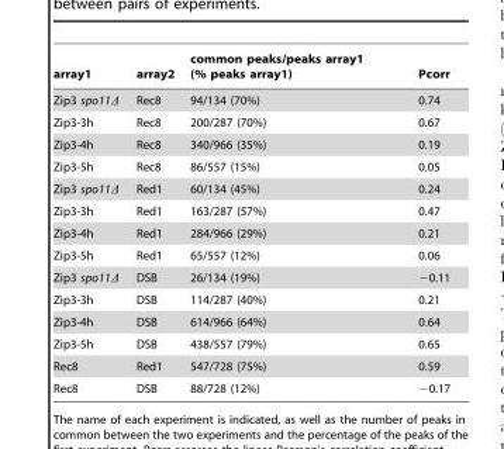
<table><thead><tr><td>array1</td><td>array2</td><td>common peaks/peaks array1 (% peaks array1)</td><td>Pcorr</td></tr></thead><tbody><tr><td>Zip3 spo11Δ</td><td>Rec8</td><td>94/134 (70%)</td><td>0.74</td></tr><tr><td>Zip3-3h</td><td>Rec8</td><td>200/287 (70%)</td><td>0.67</td></tr><tr><td>Zip3-4h</td><td>Rec8</td><td>340/966 (35%)</td><td>0.19</td></tr><tr><td>Zip3-5h</td><td>Rec8</td><td>86/557 (15%)</td><td>0.05</td></tr><tr><td>Zip3 spo11Δ</td><td>Red1</td><td>60/134 (45%)</td><td>0.24</td></tr><tr><td>Zip3-3h</td><td>Red1</td><td>163/287 (57%)</td><td>0.47</td></tr><tr><td>Zip3-4h</td><td>Red1</td><td>284/966 (29%)</td><td>0.21</td></tr><tr><td>Zip3-5h</td><td>Red1</td><td>65/557 (12%)</td><td>0.06</td></tr><tr><td>Zip3 spo11Δ</td><td>DSB</td><td>26/134 (19%)</td><td>−0.11</td></tr><tr><td>Zip3-3h</td><td>DSB</td><td>114/287 (40%)</td><td>0.21</td></tr><tr><td>Zip3-4h</td><td>DSB</td><td>614/966 (64%)</td><td>0.64</td></tr><tr><td>Zip3-5h</td><td>DSB</td><td>438/557 (79%)</td><td>0.65</td></tr><tr><td>Rec8</td><td>Red1</td><td>547/728 (75%)</td><td>0.59</td></tr><tr><td>Rec8</td><td>DSB</td><td>88/728 (12%)</td><td>−0.17</td></tr></tbody></table>